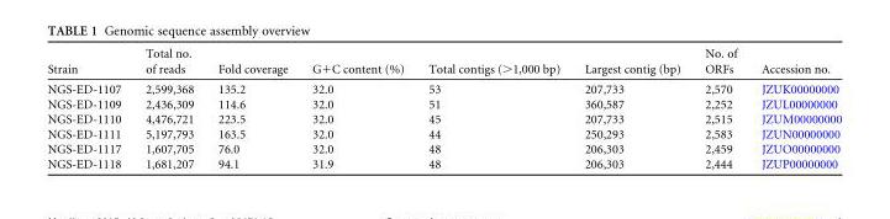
<table><thead><tr><td>Strain</td><td>Total no. of reads</td><td>Fold coverage</td><td>G+C content (%)</td><td>Total contigs (&gt;1,000 bp)</td><td>Largest contig (bp)</td><td>No. of ORFs</td><td>Accession no.</td></tr></thead><tbody><tr><td>NGS-ED-1107</td><td>2,599,368</td><td>135.2</td><td>32.0</td><td>53</td><td>207,733</td><td>2,570</td><td>JZUK00000000</td></tr><tr><td>NGS-ED-1109</td><td>2,436,309</td><td>114.6</td><td>32.0</td><td>51</td><td>360,587</td><td>2,252</td><td>JZUL00000000</td></tr><tr><td>NGS-ED-1110</td><td>4,476,721</td><td>223.5</td><td>32.0</td><td>45</td><td>207,733</td><td>2,515</td><td>JZUM00000000</td></tr><tr><td>NGS-ED-1111</td><td>5,197,793</td><td>163.5</td><td>32.0</td><td>44</td><td>250,293</td><td>2,583</td><td>JZUN00000000</td></tr><tr><td>NGS-ED-1117</td><td>1,607,705</td><td>76.0</td><td>32.0</td><td>48</td><td>206,303</td><td>2,459</td><td>JZUO00000000</td></tr><tr><td>NGS-ED-1118</td><td>1,681,207</td><td>94.1</td><td>31.9</td><td>48</td><td>206,303</td><td>2,444</td><td>JZUP00000000</td></tr></tbody></table>